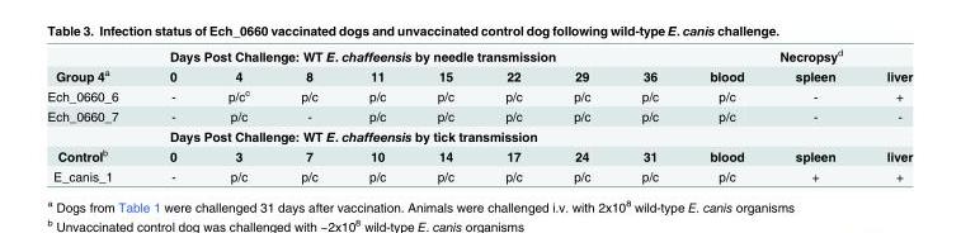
<table><thead><tr><td rowspan="2">Group 4<sup>a</sup></td><td colspan="8">Days Post Challenge: WT E. chaffeensis by needle transmission</td><td colspan="3">Necropsy<sup>d</sup></td></tr><tr><td>0</td><td>4</td><td>8</td><td>11</td><td>15</td><td>22</td><td>29</td><td>36</td><td>blood</td><td>spleen</td><td>liver</td></tr></thead><tbody><tr><td>Ech_0660_6</td><td>-</td><td>p/c<sup>c</sup></td><td>p/c</td><td>p/c</td><td>p/c</td><td>p/c</td><td>p/c</td><td>p/c</td><td>p/c</td><td>-</td><td>+</td></tr><tr><td rowspan="2">Ech_0660_7</td><td>-</td><td>p/c</td><td>-</td><td>p/c</td><td>p/c</td><td>p/c</td><td>p/c</td><td>p/c</td><td>p/c</td><td>-</td><td>-</td></tr><tr><td colspan="8">Days Post Challenge: WT E. chaffeensis by tick transmission</td><td></td><td></td><td></td></tr><tr><td>Control<sup>b</sup></td><td>0</td><td>3</td><td>7</td><td>10</td><td>14</td><td>17</td><td>24</td><td>31</td><td>blood</td><td>spleen</td><td>liver</td></tr><tr><td>E_canis_1</td><td>-</td><td>p/c</td><td>p/c</td><td>p/c</td><td>p/c</td><td>p/c</td><td>p/c</td><td>p/c</td><td>p/c</td><td>+</td><td>+</td></tr></tbody></table>